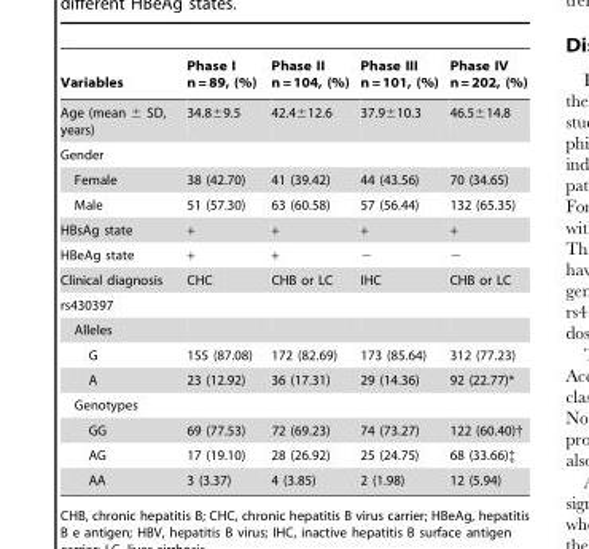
<table><thead><tr><td>Variables</td><td>Phase I n = 89, (%)</td><td>Phase II n = 104, (%)</td><td>Phase III n = 101, (%)</td><td>Phase IV n = 202, (%)</td></tr></thead><tbody><tr><td>Age (mean ± SD, years)</td><td>34.8±9.5</td><td>42.4±12.6</td><td>37.9±10.3</td><td>46.5±14.8</td></tr><tr><td colspan="5">Gender</td></tr><tr><td>Female</td><td>38 (42.70)</td><td>41 (39.42)</td><td>44 (43.56)</td><td>70 (34.65)</td></tr><tr><td>Male</td><td>51 (57.30)</td><td>63 (60.58)</td><td>57 (56.44)</td><td>132 (65.35)</td></tr><tr><td>HBsAg state</td><td>+</td><td>+</td><td>+</td><td>+</td></tr><tr><td>HBeAg state</td><td>+</td><td>+</td><td>−</td><td>−</td></tr><tr><td>Clinical diagnosis</td><td>CHC</td><td>CHB or LC</td><td>IHC</td><td>CHB or LC</td></tr><tr><td colspan="5">rs430397</td></tr><tr><td colspan="5">Alleles</td></tr><tr><td>G</td><td>155 (87.08)</td><td>172 (82.69)</td><td>173 (85.64)</td><td>312 (77.23)</td></tr><tr><td>A</td><td>23 (12.92)</td><td>36 (17.31)</td><td>29 (14.36)</td><td>92 (22.77)*</td></tr><tr><td colspan="5">Genotypes</td></tr><tr><td>GG</td><td>69 (77.53)</td><td>72 (69.23)</td><td>74 (73.27)</td><td>122 (60.40)†</td></tr><tr><td>AG</td><td>17 (19.10)</td><td>28 (26.92)</td><td>25 (24.75)</td><td>68 (33.66)‡</td></tr><tr><td>AA</td><td>3 (3.37)</td><td>4 (3.85)</td><td>2 (1.98)</td><td>12 (5.94)</td></tr></tbody></table>